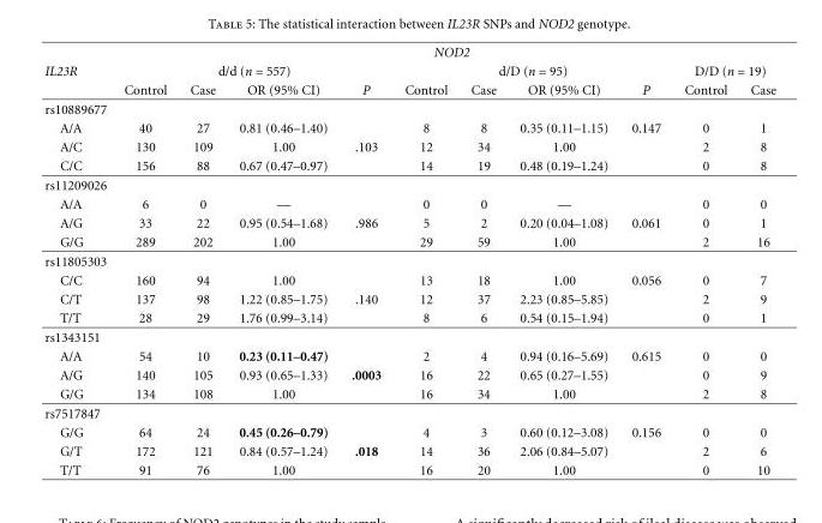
<table><thead><tr><td rowspan="3">IL23R</td><td colspan="10">NOD2</td></tr><tr><td colspan="4">d/d (n = 557)</td><td colspan="4">d/D (n = 95)</td><td colspan="2">D/D (n = 19)</td></tr><tr><td>Control</td><td>Case</td><td>OR (95% CI)</td><td>P</td><td>Control</td><td>Case</td><td>OR (95% CI)</td><td>P</td><td>Control</td><td>Case</td></tr></thead><tbody><tr><td colspan="11">rs10889677</td></tr><tr><td>A/A</td><td>40</td><td>27</td><td>0.81 (0.46–1.40)</td><td></td><td>8</td><td>8</td><td>0.35 (0.11–1.15)</td><td>0.147</td><td>0</td><td>1</td></tr><tr><td>A/C</td><td>130</td><td>109</td><td>1.00</td><td>.103</td><td>12</td><td>34</td><td>1.00</td><td></td><td>2</td><td>8</td></tr><tr><td>C/C</td><td>156</td><td>88</td><td>0.67 (0.47–0.97)</td><td></td><td>14</td><td>19</td><td>0.48 (0.19–1.24)</td><td></td><td>0</td><td>8</td></tr><tr><td colspan="11">rs11209026</td></tr><tr><td>A/A</td><td>6</td><td>0</td><td>—</td><td></td><td>0</td><td>0</td><td>—</td><td></td><td>0</td><td>0</td></tr><tr><td>A/G</td><td>33</td><td>22</td><td>0.95 (0.54–1.68)</td><td>.986</td><td>5</td><td>2</td><td>0.20 (0.04–1.08)</td><td>0.061</td><td>0</td><td>1</td></tr><tr><td>G/G</td><td>289</td><td>202</td><td>1.00</td><td></td><td>29</td><td>59</td><td>1.00</td><td></td><td>2</td><td>16</td></tr><tr><td colspan="11">rs11805303</td></tr><tr><td>C/C</td><td>160</td><td>94</td><td>1.00</td><td></td><td>13</td><td>18</td><td>1.00</td><td>0.056</td><td>0</td><td>7</td></tr><tr><td>C/T</td><td>137</td><td>98</td><td>1.22 (0.85–1.75)</td><td>.140</td><td>12</td><td>37</td><td>2.23 (0.85–5.85)</td><td></td><td>2</td><td>9</td></tr><tr><td>T/T</td><td>28</td><td>29</td><td>1.76 (0.99–3.14)</td><td></td><td>8</td><td>6</td><td>0.54 (0.15–1.94)</td><td></td><td>0</td><td>1</td></tr><tr><td colspan="11">rs1343151</td></tr><tr><td>A/A</td><td>54</td><td>10</td><td>0.23 (0.11–0.47)</td><td></td><td>2</td><td>4</td><td>0.94 (0.16–5.69)</td><td>0.615</td><td>0</td><td>0</td></tr><tr><td>A/G</td><td>140</td><td>105</td><td>0.93 (0.65–1.33)</td><td>.0003</td><td>16</td><td>22</td><td>0.65 (0.27–1.55)</td><td></td><td>0</td><td>9</td></tr><tr><td>G/G</td><td>134</td><td>108</td><td>1.00</td><td></td><td>16</td><td>34</td><td>1.00</td><td></td><td>2</td><td>8</td></tr><tr><td colspan="11">rs7517847</td></tr><tr><td>G/G</td><td>64</td><td>24</td><td>0.45 (0.26–0.79)</td><td></td><td>4</td><td>3</td><td>0.60 (0.12–3.08)</td><td>0.156</td><td>0</td><td>0</td></tr><tr><td>G/T</td><td>172</td><td>121</td><td>0.84 (0.57–1.24)</td><td>.018</td><td>14</td><td>36</td><td>2.06 (0.84–5.07)</td><td></td><td>2</td><td>6</td></tr><tr><td>T/T</td><td>91</td><td>76</td><td>1.00</td><td></td><td>16</td><td>20</td><td>1.00</td><td></td><td>0</td><td>10</td></tr></tbody></table>